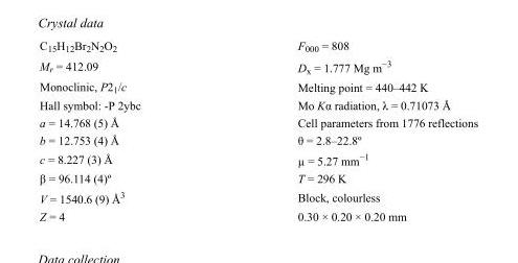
<table><tbody><tr><td>C<sub>15</sub>H<sub>12</sub>Br<sub>2</sub>N<sub>2</sub>O<sub>2</sub></td><td>F000 = 808</td></tr><tr><td>M<sub>r</sub> = 412.09</td><td>D<sub>x</sub> = 1.777 Mg m<sup>−3</sup></td></tr><tr><td>Monoclinic, P2<sub>1</sub>/c</td><td>Melting point = 440–442 K</td></tr><tr><td>Hall symbol: -P 2ybc</td><td>Mo Kα radiation, λ = 0.71073 Å</td></tr><tr><td>a = 14.768 (5) Å</td><td>Cell parameters from 1776 reflections</td></tr><tr><td>b = 12.753 (4) Å</td><td>θ = 2.8–22.8º</td></tr><tr><td>c = 8.227 (3) Å</td><td>µ = 5.27 mm<sup>−1</sup></td></tr><tr><td>β = 96.114 (4)º</td><td>T = 296 K</td></tr><tr><td>V = 1540.6 (9) Å<sup>3</sup></td><td>Block, colourless</td></tr><tr><td>Z = 4</td><td>0.30 × 0.20 × 0.20 mm</td></tr></tbody></table>